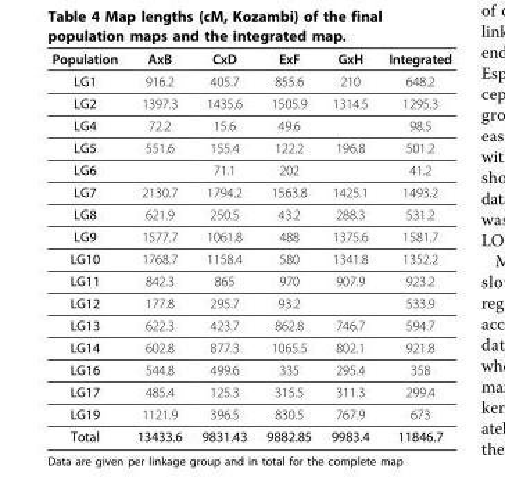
<table><thead><tr><td>Population</td><td>AxB</td><td>CxD</td><td>ExF</td><td>GxH</td><td>Integrated</td></tr></thead><tbody><tr><td>LG1</td><td>916.2</td><td>405.7</td><td>855.6</td><td>210</td><td>648.2</td></tr><tr><td>LG2</td><td>1397.3</td><td>1435.6</td><td>1505.9</td><td>1314.5</td><td>1295.3</td></tr><tr><td>LG4</td><td>72.2</td><td>15.6</td><td>49.6</td><td></td><td>98.5</td></tr><tr><td>LG5</td><td>551.6</td><td>155.4</td><td>122.2</td><td>196.8</td><td>501.2</td></tr><tr><td>LG6</td><td></td><td>71.1</td><td>202</td><td></td><td>41.2</td></tr><tr><td>LG7</td><td>2130.7</td><td>1794.2</td><td>1563.8</td><td>1425.1</td><td>1493.2</td></tr><tr><td>LG8</td><td>621.9</td><td>250.5</td><td>43.2</td><td>288.3</td><td>531.2</td></tr><tr><td>LG9</td><td>1577.7</td><td>1061.8</td><td>488</td><td>1375.6</td><td>1581.7</td></tr><tr><td>LG10</td><td>1768.7</td><td>1158.4</td><td>580</td><td>1341.8</td><td>1352.2</td></tr><tr><td>LG11</td><td>842.3</td><td>865</td><td>970</td><td>907.9</td><td>923.2</td></tr><tr><td>LG12</td><td>177.8</td><td>295.7</td><td>93.2</td><td></td><td>533.9</td></tr><tr><td>LG13</td><td>622.3</td><td>423.7</td><td>862.8</td><td>746.7</td><td>594.7</td></tr><tr><td>LG14</td><td>602.8</td><td>877.3</td><td>1065.5</td><td>802.1</td><td>921.8</td></tr><tr><td>LG16</td><td>544.8</td><td>499.6</td><td>335</td><td>295.4</td><td>358</td></tr><tr><td>LG17</td><td>485.4</td><td>125.3</td><td>315.5</td><td>311.3</td><td>299.4</td></tr><tr><td>LG19</td><td>1121.9</td><td>396.5</td><td>830.5</td><td>767.9</td><td>673</td></tr><tr><td>Total</td><td>13433.6</td><td>9831.43</td><td>9882.85</td><td>9983.4</td><td>11846.7</td></tr></tbody></table>